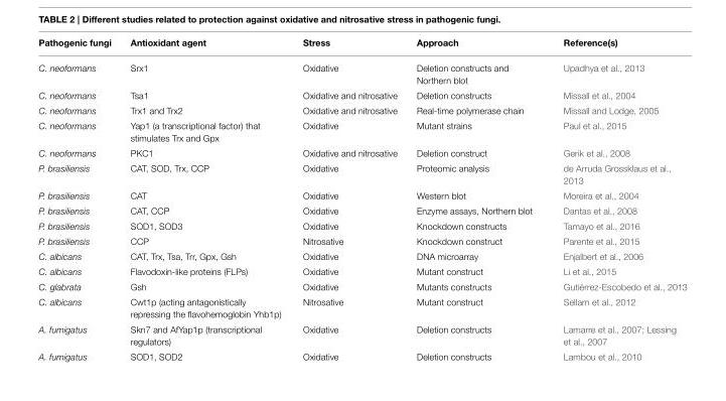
<table><thead><tr><td>Pathogenic fungi</td><td>Antioxidant agent</td><td>Stress</td><td>Approach</td><td>Reference(s)</td></tr></thead><tbody><tr><td>C. neoformans</td><td>Srx1</td><td>Oxidative</td><td>Deletion constructs and Northern blot</td><td>Upadhya et al., 2013</td></tr><tr><td>C. neoformans</td><td>Tsa1</td><td>Oxidative and nitrosative</td><td>Deletion constructs</td><td>Missall et al., 2004</td></tr><tr><td>C. neoformans</td><td>Trx1 and Trx2</td><td>Oxidative and nitrosative</td><td>Real-time polymerase chain</td><td>Missall and Lodge, 2005</td></tr><tr><td>C. neoformans</td><td>Yap1 (a transcriptional factor) that stimulates Trx and Gpx</td><td>Oxidative</td><td>Mutant strains</td><td>Paul et al., 2015</td></tr><tr><td>C. neoformans</td><td>PKC1</td><td>Oxidative and nitrosative</td><td>Deletion construct</td><td>Gerik et al., 2008</td></tr><tr><td>P. brasiliensis</td><td>CAT, SOD, Trx, CCP</td><td>Oxidative</td><td>Proteomic analysis</td><td>de Arruda Grossklaus et al., 2013</td></tr><tr><td>P. brasiliensis</td><td>CAT</td><td>Oxidative</td><td>Western blot</td><td>Moreira et al., 2004</td></tr><tr><td>P. brasiliensis</td><td>CAT, CCP</td><td>Oxidative</td><td>Enzyme assays, Northern blot</td><td>Dantas et al., 2008</td></tr><tr><td>P. brasiliensis</td><td>SOD1, SOD3</td><td>Oxidative</td><td>Knockdown constructs</td><td>Tamayo et al., 2016</td></tr><tr><td>P. brasiliensis</td><td>CCP</td><td>Nitrosative</td><td>Knockdown construct</td><td>Parente et al., 2015</td></tr><tr><td>C. albicans</td><td>CAT, Trx, Tsa, Trr, Gpx, Gsh</td><td>Oxidative</td><td>DNA microarray</td><td>Enjalbert et al., 2006</td></tr><tr><td>C. albicans</td><td>Flavodoxin-like proteins (FLPs)</td><td>Oxidative</td><td>Mutant construct</td><td>Li et al., 2015</td></tr><tr><td>C. glabrata</td><td>Gsh</td><td>Oxidative</td><td>Mutants constructs</td><td>Gutiérrez-Escobedo et al., 2013</td></tr><tr><td>C. albicans</td><td>Cwt1p (acting antagonistically repressing the flavohemoglobin Yhb1p)</td><td>Nitrosative</td><td>Mutant construct</td><td>Sellam et al., 2012</td></tr><tr><td>A. fumigatus</td><td>Skn7 and AfYap1p (transcriptional regulators)</td><td>Oxidative</td><td>Deletion constructs</td><td>Lamarre et al., 2007; Lessing et al., 2007</td></tr><tr><td>A. fumigatus</td><td>SOD1, SOD2</td><td>Oxidative</td><td>Deletion constructs</td><td>Lambou et al., 2010</td></tr></tbody></table>